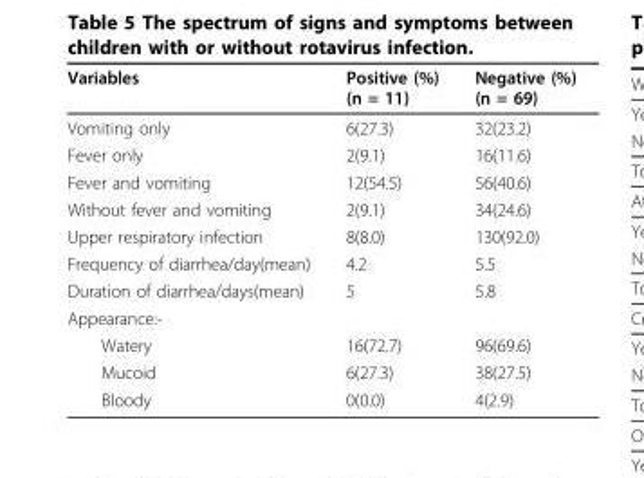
<table><thead><tr><td>Variables</td><td>Positive (%) (n = 11)</td><td>Negative (%) (n = 69)</td></tr></thead><tbody><tr><td>Vomiting only</td><td>6(27.3)</td><td>32(23.2)</td></tr><tr><td>Fever only</td><td>2(9.1)</td><td>16(11.6)</td></tr><tr><td>Fever and vomiting</td><td>12(54.5)</td><td>56(40.6)</td></tr><tr><td>Without fever and vomiting</td><td>2(9.1)</td><td>34(24.6)</td></tr><tr><td>Upper respiratory infection</td><td>8(8.0)</td><td>130(92.0)</td></tr><tr><td>Frequency of diarrhea/day(mean)</td><td>4.2</td><td>5.5</td></tr><tr><td>Duration of diarrhea/days(mean)</td><td>5</td><td>5.8</td></tr><tr><td colspan="3">Appearance:-</td></tr><tr><td>Watery</td><td>16(72.7)</td><td>96(69.6)</td></tr><tr><td>Mucoid</td><td>6(27.3)</td><td>38(27.5)</td></tr><tr><td>Bloody</td><td>0(0.0)</td><td>4(2.9)</td></tr></tbody></table>